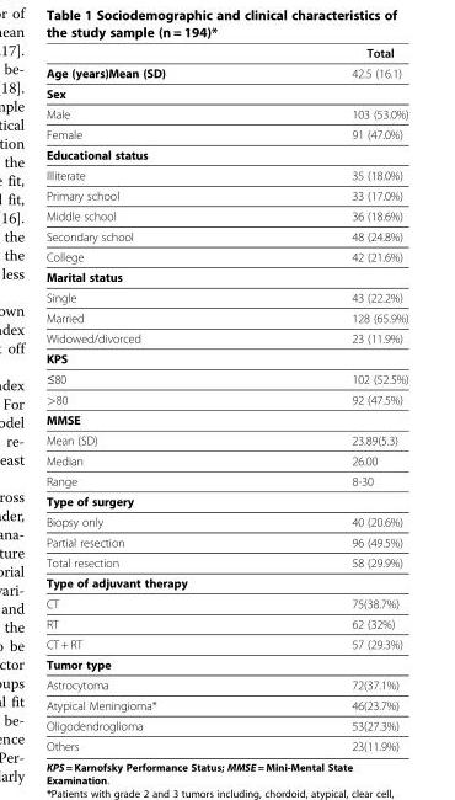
<table><thead><tr><td></td><td>Total</td></tr></thead><tbody><tr><td>Age (years)Mean (SD)</td><td>42.5 (16.1)</td></tr><tr><td colspan="2">Sex</td></tr><tr><td>Male</td><td>103 (53.0%)</td></tr><tr><td>Female</td><td>91 (47.0%)</td></tr><tr><td colspan="2">Educational status</td></tr><tr><td>Illiterate</td><td>35 (18.0%)</td></tr><tr><td>Primary school</td><td>33 (17.0%)</td></tr><tr><td>Middle school</td><td>36 (18.6%)</td></tr><tr><td>Secondary school</td><td>48 (24.8%)</td></tr><tr><td>College</td><td>42 (21.6%)</td></tr><tr><td colspan="2">Marital status</td></tr><tr><td>Single</td><td>43 (22.2%)</td></tr><tr><td>Married</td><td>128 (65.9%)</td></tr><tr><td>Widowed/divorced</td><td>23 (11.9%)</td></tr><tr><td colspan="2">KPS</td></tr><tr><td>≤80</td><td>102 (52.5%)</td></tr><tr><td>&gt;80</td><td>92 (47.5%)</td></tr><tr><td colspan="2">MMSE</td></tr><tr><td>Mean (SD)</td><td>23.89(5.3)</td></tr><tr><td>Median</td><td>26.00</td></tr><tr><td>Range</td><td>8-30</td></tr><tr><td colspan="2">Type of surgery</td></tr><tr><td>Biopsy only</td><td>40 (20.6%)</td></tr><tr><td>Partial resection</td><td>96 (49.5%)</td></tr><tr><td>Total resection</td><td>58 (29.9%)</td></tr><tr><td colspan="2">Type of adjuvant therapy</td></tr><tr><td>CT</td><td>75(38.7%)</td></tr><tr><td>RT</td><td>62 (32%)</td></tr><tr><td>CT + RT</td><td>57 (29.3%)</td></tr><tr><td colspan="2">Tumor type</td></tr><tr><td>Astrocytoma</td><td>72(37.1%)</td></tr><tr><td>Atypical Meningioma*</td><td>46(23.7%)</td></tr><tr><td>Oligodendroglioma</td><td>53(27.3%)</td></tr><tr><td>Others</td><td>23(11.9%)</td></tr></tbody></table>